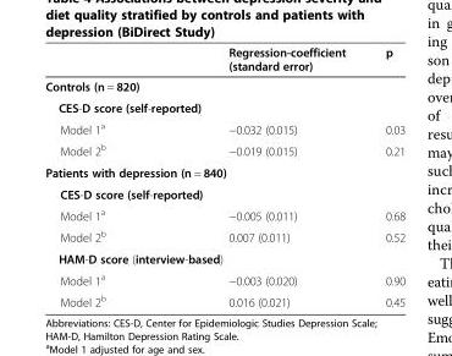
<table><thead><tr><td></td><td>Regression-coefficient (standard error)</td><td>p</td></tr></thead><tbody><tr><td colspan="3">Controls (n = 820)</td></tr><tr><td colspan="3">CES-D score (self-reported)</td></tr><tr><td>Model 1<sup>a</sup></td><td>−0.032 (0.015)</td><td>0.03</td></tr><tr><td>Model 2<sup>b</sup></td><td>−0.019 (0.015)</td><td>0.21</td></tr><tr><td colspan="3">Patients with depression (n = 840)</td></tr><tr><td colspan="3">CES-D score (self-reported)</td></tr><tr><td>Model 1<sup>a</sup></td><td>−0.005 (0.011)</td><td>0.68</td></tr><tr><td>Model 2<sup>b</sup></td><td>0.007 (0.011)</td><td>0.52</td></tr><tr><td colspan="3">HAM-D score (interview-based)</td></tr><tr><td>Model 1<sup>a</sup></td><td>−0.003 (0.020)</td><td>0.90</td></tr><tr><td>Model 2<sup>b</sup></td><td>0.016 (0.021)</td><td>0.45</td></tr></tbody></table>